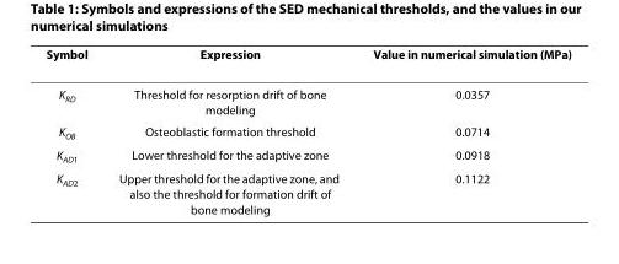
<table><thead><tr><td>Symbol</td><td>Expression</td><td>Value in numerical simulation (MPa)</td></tr></thead><tbody><tr><td>K<sub>RD</sub></td><td>Threshold for resorption drift of bone modeling</td><td>0.0357</td></tr><tr><td>K<sub>OB</sub></td><td>Osteoblastic formation threshold</td><td>0.0714</td></tr><tr><td>K<sub>AD1</sub></td><td>Lower threshold for the adaptive zone</td><td>0.0918</td></tr><tr><td>K<sub>AD2</sub></td><td>Upper threshold for the adaptive zone, and also the threshold for formation drift of bone modeling</td><td>0.1122</td></tr></tbody></table>